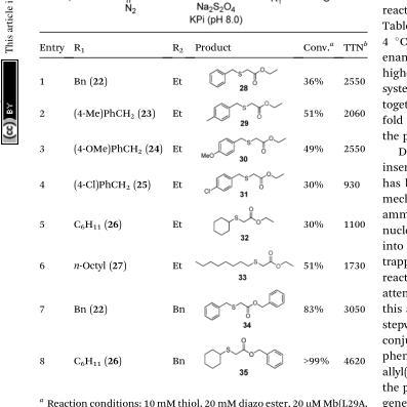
<table><thead><tr><td>Entry</td><td>R<sub>1</sub></td><td>R<sub>2</sub></td><td>Product</td><td>Conv.<sup>a</sup></td><td>TTN<sup>b</sup></td></tr></thead><tbody><tr><td>1</td><td>Bn (22)</td><td>Et</td><td></td><td>36%</td><td>2550</td></tr><tr><td>2</td><td>(4-Me)PhCH<sub>2</sub> (23)</td><td>Et</td><td></td><td>51%</td><td>2060</td></tr><tr><td>3</td><td>(4-OMe)PhCH<sub>2</sub> (24)</td><td>Et</td><td></td><td>49%</td><td>2550</td></tr><tr><td>4</td><td>(4-Cl)PhCH<sub>2</sub> (25)</td><td>Et</td><td></td><td>30%</td><td>930</td></tr><tr><td>5</td><td>C<sub>6</sub>H<sub>11</sub> (26)</td><td>Et</td><td></td><td>30%</td><td>1100</td></tr><tr><td>6</td><td>n-Octyl (27)</td><td>Et</td><td></td><td>51%</td><td>1730</td></tr><tr><td>7</td><td>Bn (22)</td><td>Bn</td><td></td><td>83%</td><td>3050</td></tr><tr><td>8</td><td>C<sub>6</sub>H<sub>11</sub> (26)</td><td>Bn</td><td></td><td>&gt;99%</td><td>4620</td></tr></tbody></table>